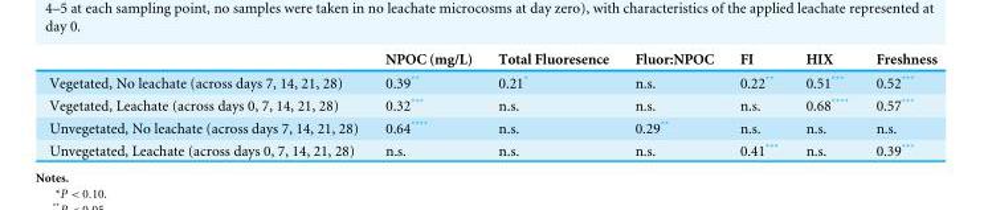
<table><thead><tr><td></td><td>NPOC (mg/L)</td><td>Total Fluoresence</td><td>Fluor:NPOC</td><td>FI</td><td>HIX</td><td>Freshness</td></tr></thead><tbody><tr><td>Vegetated, No leachate (across days 7, 14, 21, 28)</td><td>0.39**</td><td>0.21*</td><td>n.s.</td><td>0.22**</td><td>0.51***</td><td>0.52***</td></tr><tr><td>Vegetated, Leachate (across days 0, 7, 14, 21, 28)</td><td>0.32***</td><td>n.s.</td><td>n.s.</td><td>n.s.</td><td>0.68****</td><td>0.57***</td></tr><tr><td>Unvegetated, No leachate (across days 7, 14, 21, 28)</td><td>0.64****</td><td>n.s.</td><td>0.29**</td><td>n.s.</td><td>n.s.</td><td>n.s.</td></tr><tr><td>Unvegetated, Leachate (across days 0, 7, 14, 21, 28)</td><td>n.s.</td><td>n.s.</td><td>n.s.</td><td>0.41***</td><td>n.s.</td><td>0.39***</td></tr></tbody></table>